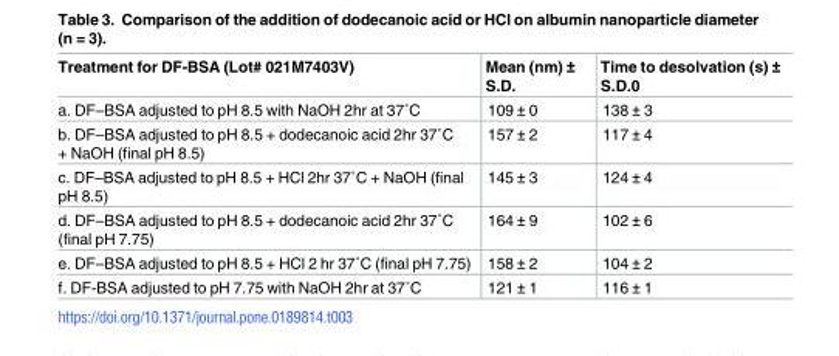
<table><thead><tr><td>Treatment for DF-BSA (Lot# 021M7403V)</td><td>Mean (nm) ± S.D.</td><td>Time to desolvation (s) ± S.D.0</td></tr></thead><tbody><tr><td>a. DF–BSA adjusted to pH 8.5 with NaOH 2hr at 37˚C</td><td>109 ± 0</td><td>138 ± 3</td></tr><tr><td>b. DF–BSA adjusted to pH 8.5 + dodecanoic acid 2hr 37˚C + NaOH (final pH 8.5)</td><td>157 ± 2</td><td>117 ± 4</td></tr><tr><td>c. DF–BSA adjusted to pH 8.5 + HCl 2hr 37˚C + NaOH (final pH 8.5)</td><td>145 ± 3</td><td>124 ± 4</td></tr><tr><td>d. DF–BSA adjusted to pH 8.5 + dodecanoic acid 2hr 37˚C (final pH 7.75)</td><td>164 ± 9</td><td>102 ± 6</td></tr><tr><td>e. DF–BSA adjusted to pH 8.5 + HCl 2 hr 37˚C (final pH 7.75)</td><td>158 ± 2</td><td>104 ± 2</td></tr><tr><td>f. DF-BSA adjusted to pH 7.75 with NaOH 2hr at 37˚C</td><td>121 ± 1</td><td>116 ± 1</td></tr></tbody></table>